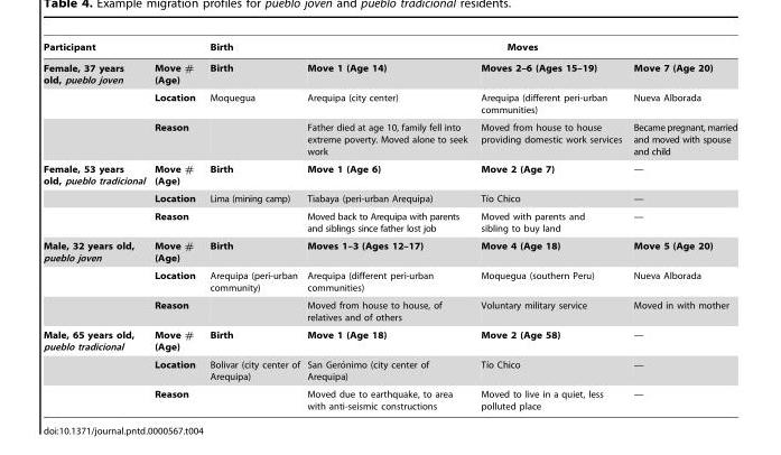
<table><thead><tr><td rowspan="2">Participant Female, 37 years old, pueblo joven</td><td rowspan="2">Move # (Age)</td><td rowspan="2">Birth Birth</td><td colspan="3">Moves</td></tr><tr><td>Move 1 (Age 14)</td><td>Moves 2–6 (Ages 15–19)</td><td>Move 7 (Age 20)</td></tr></thead><tbody><tr><td></td><td>Location</td><td>Moquegua</td><td>Arequipa (city center)</td><td>Arequipa (different peri-urban communities)</td><td>Nueva Alborada</td></tr><tr><td></td><td>Reason</td><td></td><td>Father died at age 10, family fell into extreme poverty. Moved alone to seek work</td><td>Moved from house to house providing domestic work services</td><td>Became pregnant, married and moved with spouse and child</td></tr><tr><td rowspan="3">Female, 53 years old, pueblo tradicional</td><td>Move # (Age)</td><td>Birth</td><td>Move 1 (Age 6)</td><td>Move 2 (Age 7)</td><td>—</td></tr><tr><td>Location</td><td>Lima (mining camp)</td><td>Tiabaya (peri-urban Arequipa)</td><td>Tı´o Chico</td><td>—</td></tr><tr><td>Reason</td><td></td><td>Moved back to Arequipa with parents and siblings since father lost job</td><td>Moved with parents and sibling to buy land</td><td>—</td></tr><tr><td rowspan="3">Male, 32 years old, pueblo joven</td><td>Move # (Age)</td><td>Birth</td><td>Moves 1–3 (Ages 12–17)</td><td>Move 4 (Age 18)</td><td>Move 5 (Age 20)</td></tr><tr><td>Location</td><td>Arequipa (peri-urban community)</td><td>Arequipa (different peri-urban communities)</td><td>Moquegua (southern Peru)</td><td>Nueva Alborada</td></tr><tr><td>Reason</td><td></td><td>Moved from house to house, of relatives and of others</td><td>Voluntary military service</td><td>Moved in with mother</td></tr><tr><td rowspan="3">Male, 65 years old, pueblo tradicional</td><td>Move # (Age)</td><td>Birth</td><td>Move 1 (Age 18)</td><td>Move 2 (Age 58)</td><td>—</td></tr><tr><td>Location</td><td>Bolivar (city center of Arequipa)</td><td>San Gero´nimo (city center of Arequipa)</td><td>Tı´o Chico</td><td>—</td></tr><tr><td>Reason</td><td></td><td>Moved due to earthquake, to area with anti-seismic constructions</td><td>Moved to live in a quiet, less polluted place</td><td>—</td></tr></tbody></table>